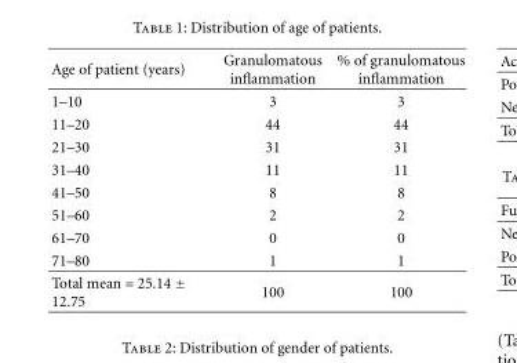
<table><thead><tr><td>Age of patient (years)</td><td>Granulomatous inflammation</td><td>% of granulomatous inflammation</td></tr></thead><tbody><tr><td>1–10</td><td>3</td><td>3</td></tr><tr><td>11–20</td><td>44</td><td>44</td></tr><tr><td>21–30</td><td>31</td><td>31</td></tr><tr><td>31–40</td><td>11</td><td>11</td></tr><tr><td>41–50</td><td>8</td><td>8</td></tr><tr><td>51–60</td><td>2</td><td>2</td></tr><tr><td>61–70</td><td>0</td><td>0</td></tr><tr><td>71–80</td><td>1</td><td>1</td></tr><tr><td>Total mean = 25.14 ± 12.75</td><td>100</td><td>100</td></tr></tbody></table>